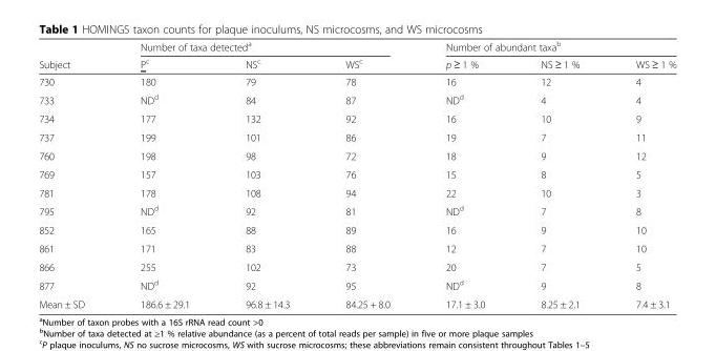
<table><thead><tr><td rowspan="2">Subject</td><td colspan="3">Number of taxa detected<sup>a</sup></td><td colspan="3">Number of abundant taxa<sup>b</sup></td></tr><tr><td>P<sup>c</sup></td><td>NS<sup>c</sup></td><td>WS<sup>c</sup></td><td>p ≥ 1 %</td><td>NS ≥ 1 %</td><td>WS ≥ 1 %</td></tr></thead><tbody><tr><td>730</td><td>180</td><td>79</td><td>78</td><td>16</td><td>12</td><td>4</td></tr><tr><td>733</td><td>ND<sup>d</sup></td><td>84</td><td>87</td><td>ND<sup>d</sup></td><td>4</td><td>4</td></tr><tr><td>734</td><td>177</td><td>132</td><td>92</td><td>16</td><td>10</td><td>9</td></tr><tr><td>737</td><td>199</td><td>101</td><td>86</td><td>19</td><td>7</td><td>11</td></tr><tr><td>760</td><td>198</td><td>98</td><td>72</td><td>18</td><td>9</td><td>12</td></tr><tr><td>769</td><td>157</td><td>103</td><td>76</td><td>15</td><td>8</td><td>5</td></tr><tr><td>781</td><td>178</td><td>108</td><td>94</td><td>22</td><td>10</td><td>3</td></tr><tr><td>795</td><td>ND<sup>d</sup></td><td>92</td><td>81</td><td>ND<sup>d</sup></td><td>7</td><td>8</td></tr><tr><td>852</td><td>165</td><td>88</td><td>89</td><td>16</td><td>9</td><td>10</td></tr><tr><td>861</td><td>171</td><td>83</td><td>88</td><td>12</td><td>7</td><td>10</td></tr><tr><td>866</td><td>255</td><td>102</td><td>73</td><td>20</td><td>7</td><td>5</td></tr><tr><td>877</td><td>ND<sup>d</sup></td><td>92</td><td>95</td><td>ND<sup>d</sup></td><td>9</td><td>8</td></tr><tr><td>Mean ± SD</td><td>186.6 ± 29.1</td><td>96.8 ± 14.3</td><td>84.25 + 8.0</td><td>17.1 ± 3.0</td><td>8.25 ± 2.1</td><td>7.4 ± 3.1</td></tr></tbody></table>